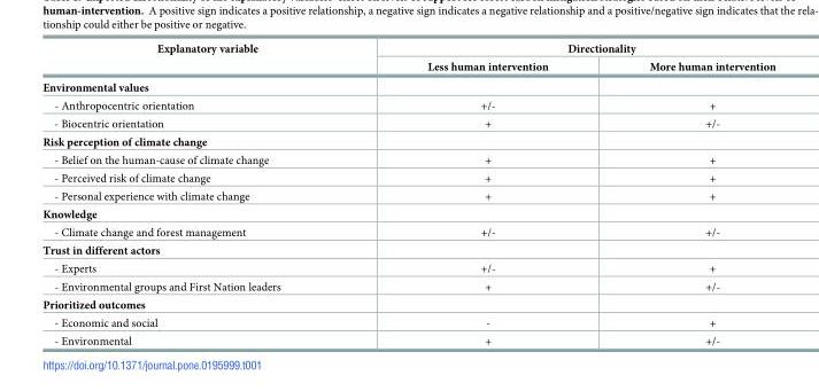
<table><thead><tr><td rowspan="2">Explanatory variable</td><td colspan="2">Directionality</td></tr><tr><td>Less human intervention</td><td>More human intervention</td></tr></thead><tbody><tr><td colspan="3">Environmental values</td></tr><tr><td>- Anthropocentric orientation</td><td>+/-</td><td>+</td></tr><tr><td>- Biocentric orientation</td><td>+</td><td>+/-</td></tr><tr><td colspan="3">Risk perception of climate change</td></tr><tr><td>- Belief on the human-cause of climate change</td><td>+</td><td>+</td></tr><tr><td>- Perceived risk of climate change</td><td>+</td><td>+</td></tr><tr><td>- Personal experience with climate change</td><td>+</td><td>+</td></tr><tr><td colspan="3">Knowledge</td></tr><tr><td>- Climate change and forest management</td><td>+/-</td><td>+/-</td></tr><tr><td colspan="3">Trust in different actors</td></tr><tr><td>- Experts</td><td>+/-</td><td>+</td></tr><tr><td>- Environmental groups and First Nation leaders</td><td>+</td><td>+/-</td></tr><tr><td colspan="3">Prioritized outcomes</td></tr><tr><td>- Economic and social</td><td>-</td><td>+</td></tr><tr><td>- Environmental</td><td>+</td><td>+/-</td></tr></tbody></table>